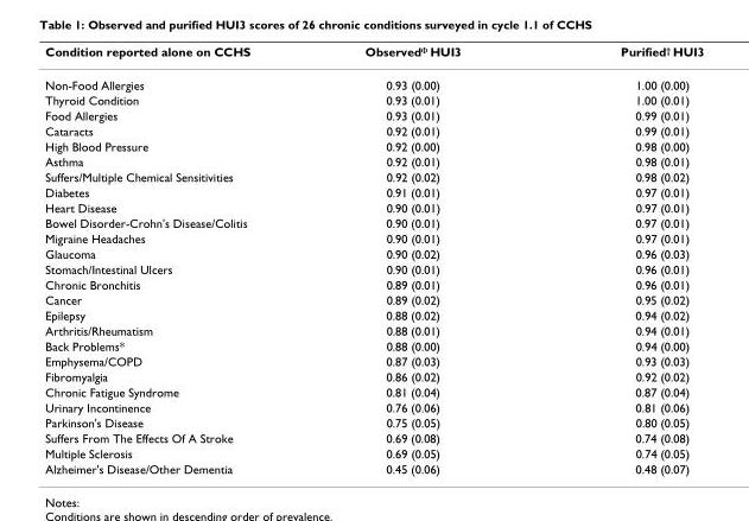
<table><thead><tr><td>Condition reported alone on CCHS</td><td>Observed<sup>Φ</sup> HUI3</td><td>Purified<sup>†</sup> HUI3</td></tr></thead><tbody><tr><td>Non-Food Allergies</td><td>0.93 (0.00)</td><td>1.00 (0.00)</td></tr><tr><td>Thyroid Condition</td><td>0.93 (0.01)</td><td>1.00 (0.01)</td></tr><tr><td>Food Allergies</td><td>0.93 (0.01)</td><td>0.99 (0.01)</td></tr><tr><td>Cataracts</td><td>0.92 (0.01)</td><td>0.99 (0.01)</td></tr><tr><td>High Blood Pressure</td><td>0.92 (0.00)</td><td>0.98 (0.00)</td></tr><tr><td>Asthma</td><td>0.92 (0.01)</td><td>0.98 (0.01)</td></tr><tr><td>Suffers/Multiple Chemical Sensitivities</td><td>0.92 (0.02)</td><td>0.98 (0.02)</td></tr><tr><td>Diabetes</td><td>0.91 (0.01)</td><td>0.97 (0.01)</td></tr><tr><td>Heart Disease</td><td>0.90 (0.01)</td><td>0.97 (0.01)</td></tr><tr><td>Bowel Disorder-Crohn&#x27;s Disease/Colitis</td><td>0.90 (0.01)</td><td>0.97 (0.01)</td></tr><tr><td>Migraine Headaches</td><td>0.90 (0.01)</td><td>0.97 (0.01)</td></tr><tr><td>Glaucoma</td><td>0.90 (0.02)</td><td>0.96 (0.03)</td></tr><tr><td>Stomach/Intestinal Ulcers</td><td>0.90 (0.01)</td><td>0.96 (0.01)</td></tr><tr><td>Chronic Bronchitis</td><td>0.89 (0.01)</td><td>0.96 (0.01)</td></tr><tr><td>Cancer</td><td>0.89 (0.02)</td><td>0.95 (0.02)</td></tr><tr><td>Epilepsy</td><td>0.88 (0.02)</td><td>0.94 (0.02)</td></tr><tr><td>Arthritis/Rheumatism</td><td>0.88 (0.01)</td><td>0.94 (0.01)</td></tr><tr><td>Back Problems*</td><td>0.88 (0.00)</td><td>0.94 (0.00)</td></tr><tr><td>Emphysema/COPD</td><td>0.87 (0.03)</td><td>0.93 (0.03)</td></tr><tr><td>Fibromyalgia</td><td>0.86 (0.02)</td><td>0.92 (0.02)</td></tr><tr><td>Chronic Fatigue Syndrome</td><td>0.81 (0.04)</td><td>0.87 (0.04)</td></tr><tr><td>Urinary Incontinence</td><td>0.76 (0.06)</td><td>0.81 (0.06)</td></tr><tr><td>Parkinson&#x27;s Disease</td><td>0.75 (0.05)</td><td>0.80 (0.05)</td></tr><tr><td>Suffers From The Effects Of A Stroke</td><td>0.69 (0.08)</td><td>0.74 (0.08)</td></tr><tr><td>Multiple Sclerosis</td><td>0.69 (0.05)</td><td>0.74 (0.05)</td></tr><tr><td>Alzheimer&#x27;s Disease/Other Dementia</td><td>0.45 (0.06)</td><td>0.48 (0.07)</td></tr></tbody></table>